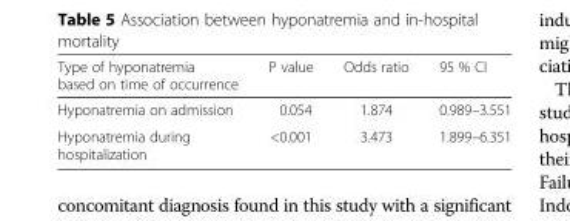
<table><thead><tr><td>Type of hyponatremia based on time of occurrence</td><td>P value</td><td>Odds ratio</td><td>95 % CI</td></tr></thead><tbody><tr><td>Hyponatremia on admission</td><td>0.054</td><td>1.874</td><td>0.989–3.551</td></tr><tr><td>Hyponatremia during hospitalization</td><td>&lt;0.001</td><td>3.473</td><td>1.899–6.351</td></tr></tbody></table>